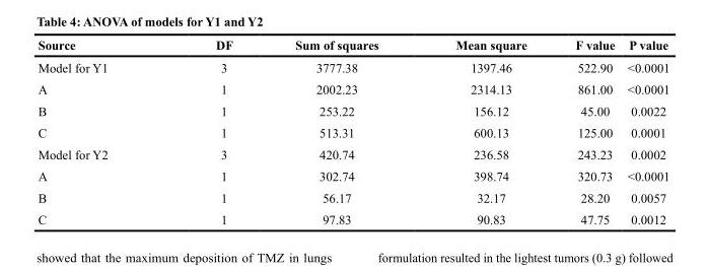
<table><thead><tr><td>Source</td><td>DF</td><td>Sum of squares</td><td>Mean square</td><td>F value</td><td>P value</td></tr></thead><tbody><tr><td>Model for Y1</td><td>3</td><td>3777.38</td><td>1397.46</td><td>522.90</td><td>&lt;0.0001</td></tr><tr><td>A</td><td>1</td><td>2002.23</td><td>2314.13</td><td>861.00</td><td>&lt;0.0001</td></tr><tr><td>B</td><td>1</td><td>253.22</td><td>156.12</td><td>45.00</td><td>0.0022</td></tr><tr><td>C</td><td>1</td><td>513.31</td><td>600.13</td><td>125.00</td><td>0.0001</td></tr><tr><td>Model for Y2</td><td>3</td><td>420.74</td><td>236.58</td><td>243.23</td><td>0.0002</td></tr><tr><td>A</td><td>1</td><td>302.74</td><td>398.74</td><td>320.73</td><td>&lt;0.0001</td></tr><tr><td>B</td><td>1</td><td>56.17</td><td>32.17</td><td>28.20</td><td>0.0057</td></tr><tr><td>C</td><td>1</td><td>97.83</td><td>90.83</td><td>47.75</td><td>0.0012</td></tr></tbody></table>